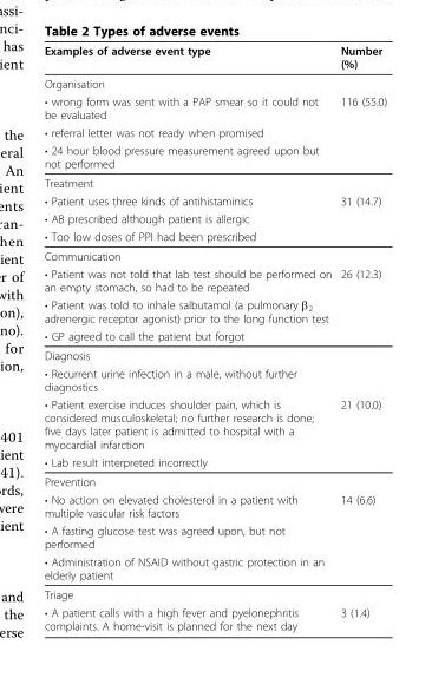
<table><thead><tr><td>Examples of adverse event type</td><td>Number (%)</td></tr></thead><tbody><tr><td colspan="2">Organisation</td></tr><tr><td>• wrong form was sent with a PAP smear so it could not be evaluated</td><td>116 (55.0)</td></tr><tr><td colspan="2">• referral letter was not ready when promised</td></tr><tr><td colspan="2">• 24 hour blood pressure measurement agreed upon but not performed</td></tr><tr><td colspan="2">Treatment</td></tr><tr><td>• Patient uses three kinds of antihistaminics</td><td>31 (14.7)</td></tr><tr><td colspan="2">• AB prescribed although patient is allergic</td></tr><tr><td colspan="2">• Too low doses of PPI had been prescribed</td></tr><tr><td colspan="2">Communication</td></tr><tr><td>• Patient was not told that lab test should be performed on an empty stomach, so had to be repeated</td><td>26 (12.3)</td></tr><tr><td colspan="2">• Patient was told to inhale salbutamol (a pulmonary β<sub>2</sub> adrenergic receptor agonist) prior to the long function test</td></tr><tr><td colspan="2">• GP agreed to call the patient but forgot</td></tr><tr><td colspan="2">Diagnosis</td></tr><tr><td colspan="2">• Recurrent urine infection in a male, without further diagnostics</td></tr><tr><td>• Patient exercise induces shoulder pain, which is considered musculoskeletal; no further research is done; five days later patient is admitted to hospital with a myocardial infarction</td><td>21 (10.0)</td></tr><tr><td colspan="2">• Lab result interpreted incorrectly</td></tr><tr><td colspan="2">Prevention</td></tr><tr><td>• No action on elevated cholesterol in a patient with multiple vascular risk factors</td><td>14 (6.6)</td></tr><tr><td colspan="2">• A fasting glucose test was agreed upon, but not performed</td></tr><tr><td colspan="2">• Administration of NSAID without gastric protection in an elderly patient</td></tr><tr><td colspan="2">Triage</td></tr><tr><td>• A patient calls with a high fever and pyelonephritis complaints. A home-visit is planned for the next day</td><td>3 (1.4)</td></tr></tbody></table>